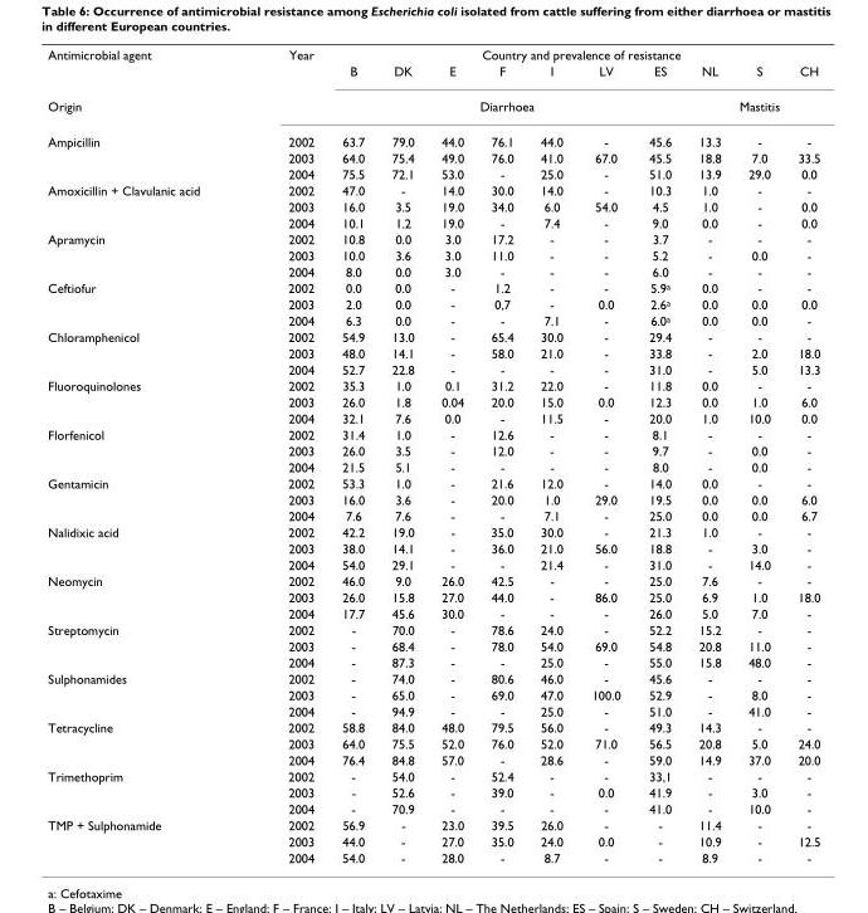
<table><tbody><tr><td rowspan="2">Antimicrobial agent</td><td>Year</td><td colspan="10">Country and prevalence of resistance</td></tr><tr><td></td><td>B</td><td>DK</td><td>E</td><td>F</td><td>I</td><td>LV</td><td>ES</td><td>NL</td><td>S</td><td>CH</td></tr><tr><td>Origin</td><td></td><td colspan="7">Diarrhoea</td><td colspan="3">Mastitis</td></tr><tr><td rowspan="3">Ampicillin</td><td>2002</td><td>63.7</td><td>79.0</td><td>44.0</td><td>76.1</td><td>44.0</td><td>-</td><td>45.6</td><td>13.3</td><td>-</td><td>-</td></tr><tr><td>2003</td><td>64.0</td><td>75.4</td><td>49.0</td><td>76.0</td><td>41.0</td><td>67.0</td><td>45.5</td><td>18.8</td><td>7.0</td><td>33.5</td></tr><tr><td>2004</td><td>75.5</td><td>72.1</td><td>53.0</td><td>-</td><td>25.0</td><td>-</td><td>51.0</td><td>13.9</td><td>29.0</td><td>0.0</td></tr><tr><td rowspan="3">Amoxicillin + Clavulanic acid</td><td>2002</td><td>47.0</td><td>-</td><td>14.0</td><td>30.0</td><td>14.0</td><td>-</td><td>10.3</td><td>1.0</td><td>-</td><td>-</td></tr><tr><td>2003</td><td>16.0</td><td>3.5</td><td>19.0</td><td>34.0</td><td>6.0</td><td>54.0</td><td>4.5</td><td>1.0</td><td>-</td><td>0.0</td></tr><tr><td>2004</td><td>10.1</td><td>1.2</td><td>19.0</td><td>-</td><td>7.4</td><td>-</td><td>9.0</td><td>0.0</td><td>-</td><td>0.0</td></tr><tr><td rowspan="3">Apramycin</td><td>2002</td><td>10.8</td><td>0.0</td><td>3.0</td><td>17.2</td><td>-</td><td>-</td><td>3.7</td><td>-</td><td>-</td><td>-</td></tr><tr><td>2003</td><td>10.0</td><td>3.6</td><td>3.0</td><td>11.0</td><td>-</td><td>-</td><td>5.2</td><td>-</td><td>0.0</td><td>-</td></tr><tr><td>2004</td><td>8.0</td><td>0.0</td><td>3.0</td><td>-</td><td>-</td><td>-</td><td>6.0</td><td>-</td><td>-</td><td>-</td></tr><tr><td rowspan="3">Ceftiofur</td><td>2002</td><td>0.0</td><td>0.0</td><td>-</td><td>1.2</td><td>-</td><td>-</td><td>5.9<sup>a</sup></td><td>0.0</td><td>-</td><td>-</td></tr><tr><td>2003</td><td>2.0</td><td>0.0</td><td>-</td><td>0,7</td><td>-</td><td>0.0</td><td>2.6<sup>a</sup></td><td>0.0</td><td>0.0</td><td>0.0</td></tr><tr><td>2004</td><td>6.3</td><td>0.0</td><td>-</td><td>-</td><td>7.1</td><td>-</td><td>6.0<sup>a</sup></td><td>0.0</td><td>0.0</td><td>-</td></tr><tr><td rowspan="3">Chloramphenicol</td><td>2002</td><td>54.9</td><td>13.0</td><td>-</td><td>65.4</td><td>30.0</td><td>-</td><td>29.4</td><td>-</td><td>-</td><td>-</td></tr><tr><td>2003</td><td>48.0</td><td>14.1</td><td>-</td><td>58.0</td><td>21.0</td><td>-</td><td>33.8</td><td>-</td><td>2.0</td><td>18.0</td></tr><tr><td>2004</td><td>52.7</td><td>22.8</td><td>-</td><td>-</td><td>-</td><td>-</td><td>31.0</td><td>-</td><td>5.0</td><td>13.3</td></tr><tr><td rowspan="3">Fluoroquinolones</td><td>2002</td><td>35.3</td><td>1.0</td><td>0.1</td><td>31.2</td><td>22.0</td><td>-</td><td>11.8</td><td>0.0</td><td>-</td><td>-</td></tr><tr><td>2003</td><td>26.0</td><td>1.8</td><td>0.04</td><td>20.0</td><td>15.0</td><td>0.0</td><td>12.3</td><td>0.0</td><td>1.0</td><td>6.0</td></tr><tr><td>2004</td><td>32.1</td><td>7.6</td><td>0.0</td><td>-</td><td>11.5</td><td>-</td><td>20.0</td><td>1.0</td><td>10.0</td><td>0.0</td></tr><tr><td rowspan="3">Florfenicol</td><td>2002</td><td>31.4</td><td>1.0</td><td>-</td><td>12.6</td><td>-</td><td>-</td><td>8.1</td><td>-</td><td>-</td><td>-</td></tr><tr><td>2003</td><td>26.0</td><td>3.5</td><td>-</td><td>12.0</td><td>-</td><td>-</td><td>9.7</td><td>-</td><td>0.0</td><td>-</td></tr><tr><td>2004</td><td>21.5</td><td>5.1</td><td>-</td><td>-</td><td>-</td><td>-</td><td>8.0</td><td>-</td><td>0.0</td><td>-</td></tr><tr><td rowspan="3">Gentamicin</td><td>2002</td><td>53.3</td><td>1.0</td><td>-</td><td>21.6</td><td>12.0</td><td>-</td><td>14.0</td><td>0.0</td><td>-</td><td>-</td></tr><tr><td>2003</td><td>16.0</td><td>3.6</td><td>-</td><td>20.0</td><td>1.0</td><td>29.0</td><td>19.5</td><td>0.0</td><td>0.0</td><td>6.0</td></tr><tr><td>2004</td><td>7.6</td><td>7.6</td><td>-</td><td>-</td><td>7.1</td><td>-</td><td>25.0</td><td>0.0</td><td>0.0</td><td>6.7</td></tr><tr><td rowspan="3">Nalidixic acid</td><td>2002</td><td>42.2</td><td>19.0</td><td>-</td><td>35.0</td><td>30.0</td><td>-</td><td>21.3</td><td>1.0</td><td>-</td><td>-</td></tr><tr><td>2003</td><td>38.0</td><td>14.1</td><td>-</td><td>36.0</td><td>21.0</td><td>56.0</td><td>18.8</td><td>-</td><td>3.0</td><td>-</td></tr><tr><td>2004</td><td>54.0</td><td>29.1</td><td>-</td><td>-</td><td>21.4</td><td>-</td><td>31.0</td><td>-</td><td>14.0</td><td>-</td></tr><tr><td rowspan="3">Neomycin</td><td>2002</td><td>46.0</td><td>9.0</td><td>26.0</td><td>42.5</td><td>-</td><td>-</td><td>25.0</td><td>7.6</td><td>-</td><td>-</td></tr><tr><td>2003</td><td>26.0</td><td>15.8</td><td>27.0</td><td>44.0</td><td>-</td><td>86.0</td><td>25.0</td><td>6.9</td><td>1.0</td><td>18.0</td></tr><tr><td>2004</td><td>17.7</td><td>45.6</td><td>30.0</td><td>-</td><td>-</td><td>-</td><td>26.0</td><td>5.0</td><td>7.0</td><td>-</td></tr><tr><td rowspan="3">Streptomycin</td><td>2002</td><td>-</td><td>70.0</td><td>-</td><td>78.6</td><td>24.0</td><td>-</td><td>52.2</td><td>15.2</td><td>-</td><td>-</td></tr><tr><td>2003</td><td>-</td><td>68.4</td><td>-</td><td>78.0</td><td>54.0</td><td>69.0</td><td>54.8</td><td>20.8</td><td>11.0</td><td>-</td></tr><tr><td>2004</td><td>-</td><td>87.3</td><td>-</td><td>-</td><td>25.0</td><td>-</td><td>55.0</td><td>15.8</td><td>48.0</td><td>-</td></tr><tr><td rowspan="3">Sulphonamides</td><td>2002</td><td>-</td><td>74.0</td><td>-</td><td>80.6</td><td>46.0</td><td>-</td><td>45.6</td><td>-</td><td>-</td><td>-</td></tr><tr><td>2003</td><td>-</td><td>65.0</td><td>-</td><td>69.0</td><td>47.0</td><td>100.0</td><td>52.9</td><td>-</td><td>8.0</td><td>-</td></tr><tr><td>2004</td><td>-</td><td>94.9</td><td>-</td><td>-</td><td>25.0</td><td>-</td><td>51.0</td><td>-</td><td>41.0</td><td>-</td></tr><tr><td rowspan="3">Tetracycline</td><td>2002</td><td>58.8</td><td>84.0</td><td>48.0</td><td>79.5</td><td>56.0</td><td>-</td><td>49.3</td><td>14.3</td><td>-</td><td>-</td></tr><tr><td>2003</td><td>64.0</td><td>75.5</td><td>52.0</td><td>76.0</td><td>52.0</td><td>71.0</td><td>56.5</td><td>20.8</td><td>5.0</td><td>24.0</td></tr><tr><td>2004</td><td>76.4</td><td>84.8</td><td>57.0</td><td>-</td><td>28.6</td><td>-</td><td>59.0</td><td>14.9</td><td>37.0</td><td>20.0</td></tr><tr><td rowspan="3">Trimethoprim</td><td>2002</td><td>-</td><td>54.0</td><td>-</td><td>52.4</td><td>-</td><td>-</td><td>33,1</td><td>-</td><td>-</td><td>-</td></tr><tr><td>2003</td><td>-</td><td>52.6</td><td>-</td><td>39.0</td><td>-</td><td>0.0</td><td>41.9</td><td>-</td><td>3.0</td><td>-</td></tr><tr><td>2004</td><td>-</td><td>70.9</td><td>-</td><td>-</td><td>-</td><td>-</td><td>41.0</td><td>-</td><td>10.0</td><td>-</td></tr><tr><td rowspan="3">TMP + Sulphonamide</td><td>2002</td><td>56.9</td><td>-</td><td>23.0</td><td>39.5</td><td>26.0</td><td>-</td><td>-</td><td>11.4</td><td>-</td><td>-</td></tr><tr><td>2003</td><td>44.0</td><td>-</td><td>27.0</td><td>35.0</td><td>24.0</td><td>0.0</td><td>-</td><td>10.9</td><td>-</td><td>12.5</td></tr><tr><td>2004</td><td>54.0</td><td>-</td><td>28.0</td><td>-</td><td>8.7</td><td>-</td><td>-</td><td>8.9</td><td>-</td><td>-</td></tr></tbody></table>